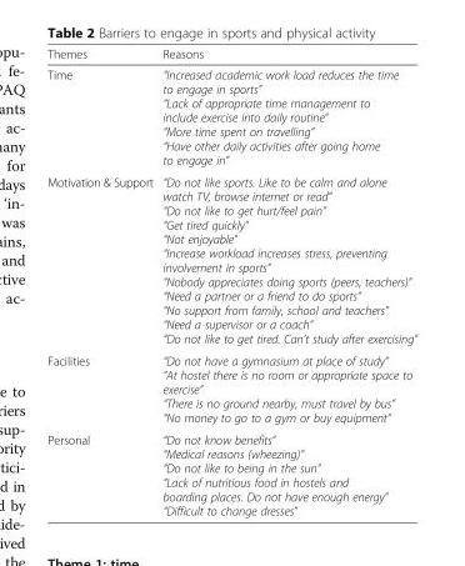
<table><thead><tr><td>Themes</td><td>Reasons</td></tr></thead><tbody><tr><td>Time</td><td>“Increased academic work load reduces the time to engage in sports” “Lack of appropriate time management to include exercise into daily routine” “More time spent on travelling” “Have other daily activities after going home to engage in”</td></tr><tr><td>Motivation &amp; Support</td><td>“Do not like sports. Like to be calm and alone watch TV, browse internet or read” “Do not like to get hurt/feel pain” “Get tired quickly” “Not enjoyable” “Increase workload increases stress, preventing involvement in sports” “Nobody appreciates doing sports (peers, teachers)” “Need a partner or a friend to do sports” “No support from family, school and teachers” “Need a supervisor or a coach” “Do not like to get tired. Can’t study after exercising”</td></tr><tr><td>Facilities</td><td>“Do not have a gymnasium at place of study” “At hostel there is no room or appropriate space to exercise” “There is no ground nearby, must travel by bus” “No money to go to a gym or buy equipment”</td></tr><tr><td>Personal</td><td>“Do not know benefits” “Medical reasons (wheezing)” “Do not like to being in the sun” “Lack of nutritious food in hostels and boarding places. Do not have enough energy” “Difficult to change dresses”</td></tr></tbody></table>